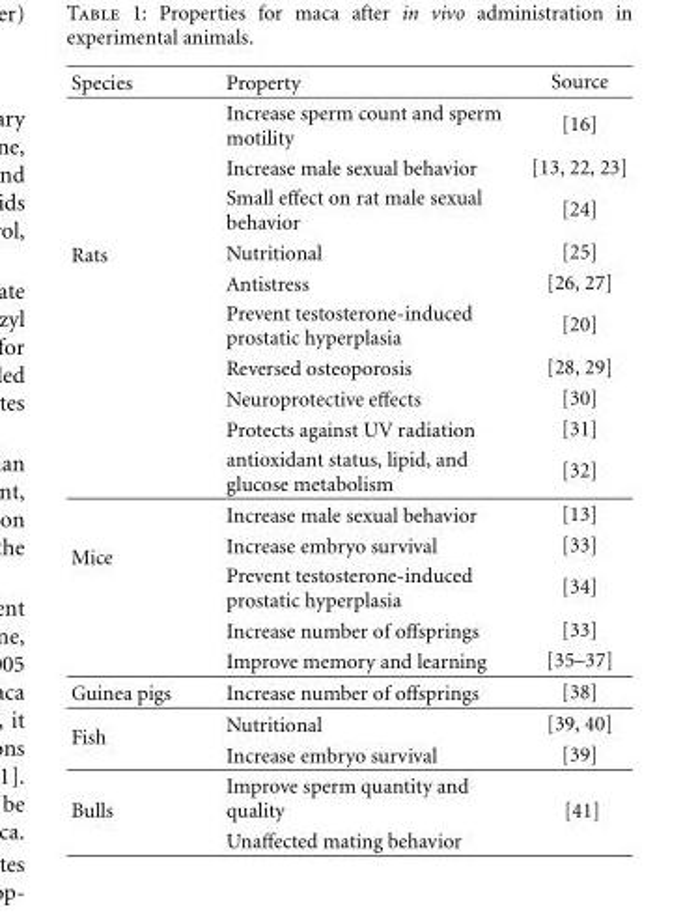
<table><thead><tr><td>Species</td><td>Property</td><td>Source</td></tr></thead><tbody><tr><td rowspan="10">Rats</td><td>Increase sperm count and sperm motility</td><td>[16]</td></tr><tr><td>Increase male sexual behavior</td><td>[13, 22, 23]</td></tr><tr><td>Small effect on rat male sexual behavior</td><td>[24]</td></tr><tr><td>Nutritional</td><td>[25]</td></tr><tr><td>Antistress</td><td>[26, 27]</td></tr><tr><td>Prevent testosterone-induced prostatic hyperplasia</td><td>[20]</td></tr><tr><td>Reversed osteoporosis</td><td>[28, 29]</td></tr><tr><td>Neuroprotective effects</td><td>[30]</td></tr><tr><td>Protects against UV radiation</td><td>[31]</td></tr><tr><td>antioxidant status, lipid, and glucose metabolism</td><td>[32]</td></tr><tr><td rowspan="5">Mice</td><td>Increase male sexual behavior</td><td>[13]</td></tr><tr><td>Increase embryo survival</td><td>[33]</td></tr><tr><td>Prevent testosterone-induced prostatic hyperplasia</td><td>[34]</td></tr><tr><td>Increase number of offsprings</td><td>[33]</td></tr><tr><td>Improve memory and learning</td><td>[35–37]</td></tr><tr><td>Guinea pigs</td><td>Increase number of offsprings</td><td>[38]</td></tr><tr><td rowspan="2">Fish</td><td>Nutritional</td><td>[39, 40]</td></tr><tr><td>Increase embryo survival</td><td>[39]</td></tr><tr><td rowspan="2">Bulls</td><td>Improve sperm quantity and quality</td><td rowspan="2">[41]</td></tr><tr><td>Unaffected mating behavior</td></tr></tbody></table>